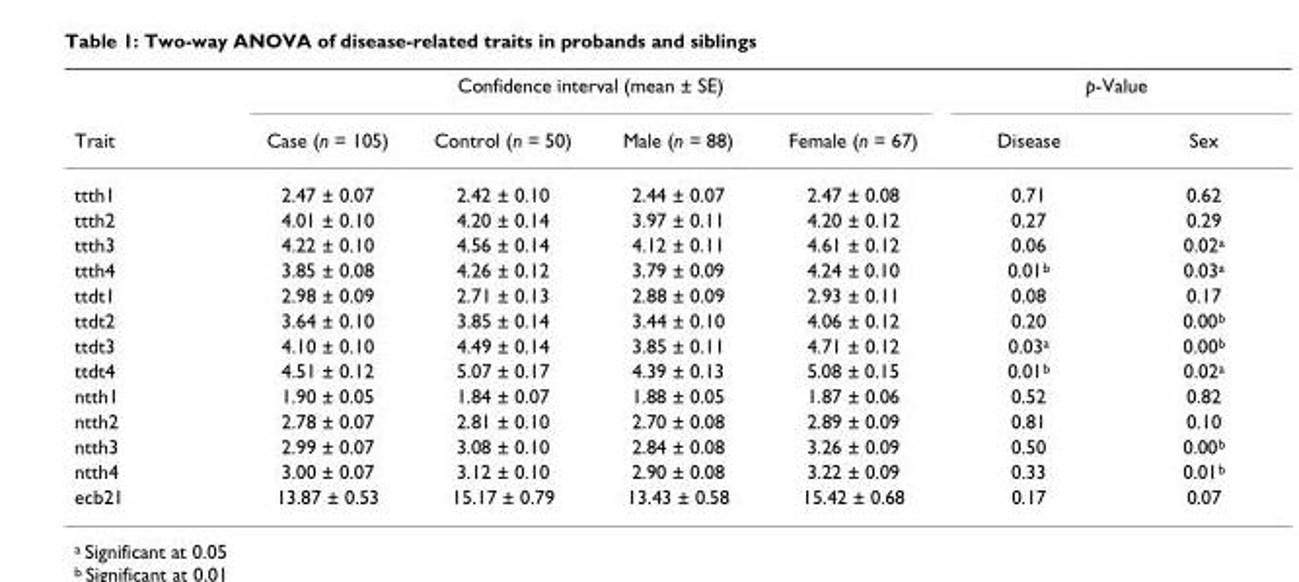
<table><thead><tr><td rowspan="2">Trait</td><td colspan="4">Confidence interval (mean ± SE)</td><td colspan="2">p-Value</td></tr><tr><td>Case (n = 105)</td><td>Control (n = 50)</td><td>Male (n = 88)</td><td>Female (n = 67)</td><td>Disease</td><td>Sex</td></tr></thead><tbody><tr><td>ttth1</td><td>2.47 ± 0.07</td><td>2.42 ± 0.10</td><td>2.44 ± 0.07</td><td>2.47 ± 0.08</td><td>0.71</td><td>0.62</td></tr><tr><td>ttth2</td><td>4.01 ± 0.10</td><td>4.20 ± 0.14</td><td>3.97 ± 0.11</td><td>4.20 ± 0.12</td><td>0.27</td><td>0.29</td></tr><tr><td>ttth3</td><td>4.22 ± 0.10</td><td>4.56 ± 0.14</td><td>4.12 ± 0.11</td><td>4.61 ± 0.12</td><td>0.06</td><td>0.02a</td></tr><tr><td>ttth4</td><td>3.85 ± 0.08</td><td>4.26 ± 0.12</td><td>3.79 ± 0.09</td><td>4.24 ± 0.10</td><td>0.01b</td><td>0.03a</td></tr><tr><td>ttdt1</td><td>2.98 ± 0.09</td><td>2.71 ± 0.13</td><td>2.88 ± 0.09</td><td>2.93 ± 0.11</td><td>0.08</td><td>0.17</td></tr><tr><td>ttdt2</td><td>3.64 ± 0.10</td><td>3.85 ± 0.14</td><td>3.44 ± 0.10</td><td>4.06 ± 0.12</td><td>0.20</td><td>0.00b</td></tr><tr><td>ttdt3</td><td>4.10 ± 0.10</td><td>4.49 ± 0.14</td><td>3.85 ± 0.11</td><td>4.71 ± 0.12</td><td>0.03a</td><td>0.00b</td></tr><tr><td>ttdt4</td><td>4.51 ± 0.12</td><td>5.07 ± 0.17</td><td>4.39 ± 0.13</td><td>5.08 ± 0.15</td><td>0.01b</td><td>0.02a</td></tr><tr><td>ntth1</td><td>1.90 ± 0.05</td><td>1.84 ± 0.07</td><td>1.88 ± 0.05</td><td>1.87 ± 0.06</td><td>0.52</td><td>0.82</td></tr><tr><td>ntth2</td><td>2.78 ± 0.07</td><td>2.81 ± 0.10</td><td>2.70 ± 0.08</td><td>2.89 ± 0.09</td><td>0.81</td><td>0.10</td></tr><tr><td>ntth3</td><td>2.99 ± 0.07</td><td>3.08 ± 0.10</td><td>2.84 ± 0.08</td><td>3.26 ± 0.09</td><td>0.50</td><td>0.00b</td></tr><tr><td>ntth4</td><td>3.00 ± 0.07</td><td>3.12 ± 0.10</td><td>2.90 ± 0.08</td><td>3.22 ± 0.09</td><td>0.33</td><td>0.01b</td></tr><tr><td>ecb21</td><td>13.87 ± 0.53</td><td>15.17 ± 0.79</td><td>13.43 ± 0.58</td><td>15.42 ± 0.68</td><td>0.17</td><td>0.07</td></tr></tbody></table>